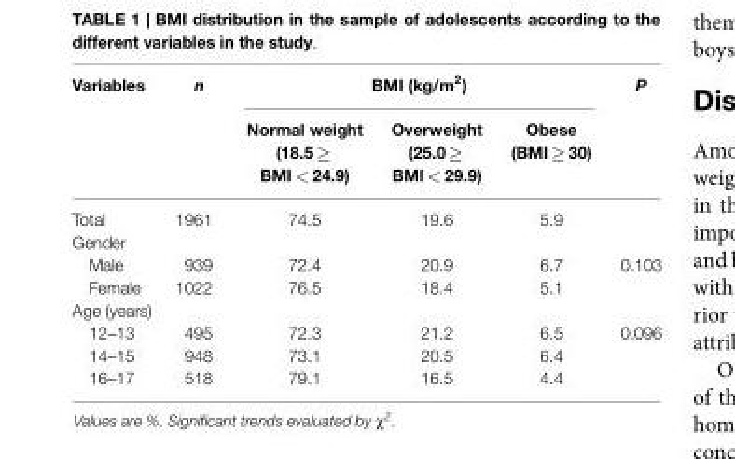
<table><thead><tr><td rowspan="2">Variables</td><td rowspan="2">n</td><td colspan="3">BMI (kg/m<sup>2</sup>)</td><td rowspan="2">P</td></tr><tr><td>Normal weight (18.5 ≥ BMI &lt; 24.9)</td><td>Overweight (25.0 ≥ BMI &lt; 29.9)</td><td>Obese (BMI ≥ 30)</td></tr></thead><tbody><tr><td>Total</td><td>1961</td><td>74.5</td><td>19.6</td><td>5.9</td><td></td></tr><tr><td colspan="6">Gender</td></tr><tr><td>Male</td><td>939</td><td>72.4</td><td>20.9</td><td>6.7</td><td>0.103</td></tr><tr><td>Female</td><td>1022</td><td>76.5</td><td>18.4</td><td>5.1</td><td></td></tr><tr><td colspan="6">Age (years)</td></tr><tr><td>12–13</td><td>495</td><td>72.3</td><td>21.2</td><td>6.5</td><td>0.096</td></tr><tr><td>14–15</td><td>948</td><td>73.1</td><td>20.5</td><td>6.4</td><td></td></tr><tr><td>16–17</td><td>518</td><td>79.1</td><td>16.5</td><td>4.4</td><td></td></tr></tbody></table>